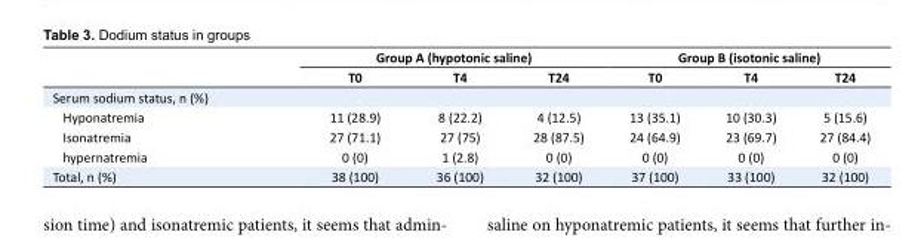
<table><thead><tr><td rowspan="2"></td><td colspan="3">Group A (hypotonic saline)</td><td colspan="3">Group B (isotonic saline)</td></tr><tr><td>T0</td><td>T4</td><td>T24</td><td>T0</td><td>T4</td><td>T24</td></tr></thead><tbody><tr><td colspan="7">Serum sodium status, n (%)</td></tr><tr><td>Hyponatremia</td><td>11 (28.9)</td><td>8 (22.2)</td><td>4 (12.5)</td><td>13 (35.1)</td><td>10 (30.3)</td><td>5 (15.6)</td></tr><tr><td>Isonatremia</td><td>27 (71.1)</td><td>27 (75)</td><td>28 (87.5)</td><td>24 (64.9)</td><td>23 (69.7)</td><td>27 (84.4)</td></tr><tr><td>hypernatremia</td><td>0 (0)</td><td>1 (2.8)</td><td>0 (0)</td><td>0 (0)</td><td>0 (0)</td><td>0 (0)</td></tr><tr><td>Total, n (%)</td><td>38 (100)</td><td>36 (100)</td><td>32 (100)</td><td>37 (100)</td><td>33 (100)</td><td>32 (100)</td></tr></tbody></table>